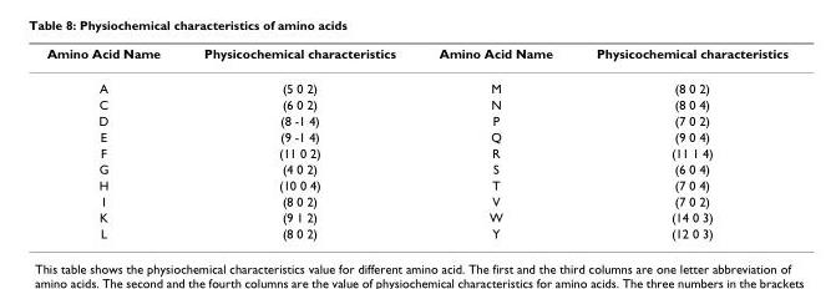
<table><thead><tr><td>Amino Acid Name</td><td>Physicochemical characteristics</td><td>Amino Acid Name</td><td>Physicochemical characteristics</td></tr></thead><tbody><tr><td>A</td><td>(5 0 2)</td><td>M</td><td>(8 0 2)</td></tr><tr><td>C</td><td>(6 0 2)</td><td>N</td><td>(8 0 4)</td></tr><tr><td>D</td><td>(8 -1 4)</td><td>P</td><td>(7 0 2)</td></tr><tr><td>E</td><td>(9 -1 4)</td><td>Q</td><td>(9 0 4)</td></tr><tr><td>F</td><td>(11 0 2)</td><td>R</td><td>(11 1 4)</td></tr><tr><td>G</td><td>(4 0 2)</td><td>S</td><td>(6 0 4)</td></tr><tr><td>H</td><td>(10 0 4)</td><td>T</td><td>(7 0 4)</td></tr><tr><td>I</td><td>(8 0 2)</td><td>V</td><td>(7 0 2)</td></tr><tr><td>K</td><td>(9 1 2)</td><td>W</td><td>(14 0 3)</td></tr><tr><td>L</td><td>(8 0 2)</td><td>Y</td><td>(12 0 3)</td></tr></tbody></table>